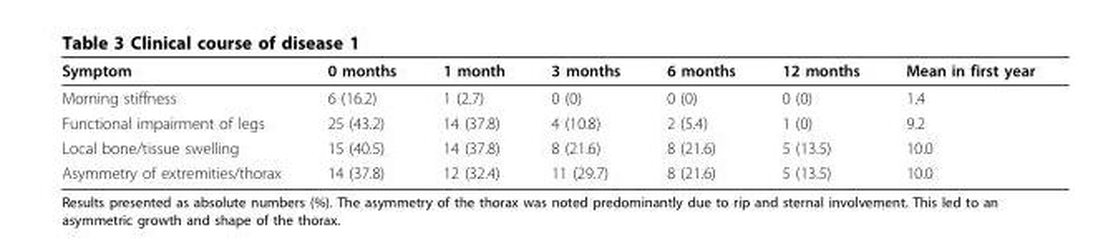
<table><thead><tr><td>Symptom</td><td>0 months</td><td>1 month</td><td>3 months</td><td>6 months</td><td>12 months</td><td>Mean in first year</td></tr></thead><tbody><tr><td>Morning stiffness</td><td>6 (16.2)</td><td>1 (2.7)</td><td>0 (0)</td><td>0 (0)</td><td>0 (0)</td><td>1.4</td></tr><tr><td>Functional impairment of legs</td><td>25 (43.2)</td><td>14 (37.8)</td><td>4 (10.8)</td><td>2 (5.4)</td><td>1 (0)</td><td>9.2</td></tr><tr><td>Local bone/tissue swelling</td><td>15 (40.5)</td><td>14 (37.8)</td><td>8 (21.6)</td><td>8 (21.6)</td><td>5 (13.5)</td><td>10.0</td></tr><tr><td>Asymmetry of extremities/thorax</td><td>14 (37.8)</td><td>12 (32.4)</td><td>11 (29.7)</td><td>8 (21.6)</td><td>5 (13.5)</td><td>10.0</td></tr></tbody></table>